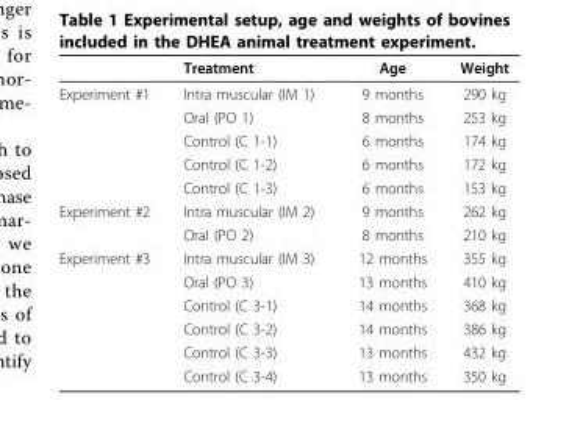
<table><thead><tr><td></td><td>Treatment</td><td>Age</td><td>Weight</td></tr></thead><tbody><tr><td rowspan="5">Experiment #1</td><td>Intra muscular (IM 1)</td><td>9 months</td><td>290 kg</td></tr><tr><td>Oral (PO 1)</td><td>8 months</td><td>253 kg</td></tr><tr><td>Control (C 1-1)</td><td>6 months</td><td>174 kg</td></tr><tr><td>Control (C 1-2)</td><td>6 months</td><td>172 kg</td></tr><tr><td>Control (C 1-3)</td><td>6 months</td><td>153 kg</td></tr><tr><td rowspan="2">Experiment #2</td><td>Intra muscular (IM 2)</td><td>9 months</td><td>262 kg</td></tr><tr><td>Oral (PO 2)</td><td>8 months</td><td>210 kg</td></tr><tr><td rowspan="6">Experiment #3</td><td>Intra muscular (IM 3)</td><td>12 months</td><td>355 kg</td></tr><tr><td>Oral (PO 3)</td><td>13 months</td><td>410 kg</td></tr><tr><td>Control (C 3-1)</td><td>14 months</td><td>368 kg</td></tr><tr><td>Control (C 3-2)</td><td>14 months</td><td>386 kg</td></tr><tr><td>Control (C 3-3)</td><td>13 months</td><td>432 kg</td></tr><tr><td>Control (C 3-4)</td><td>13 months</td><td>350 kg</td></tr></tbody></table>